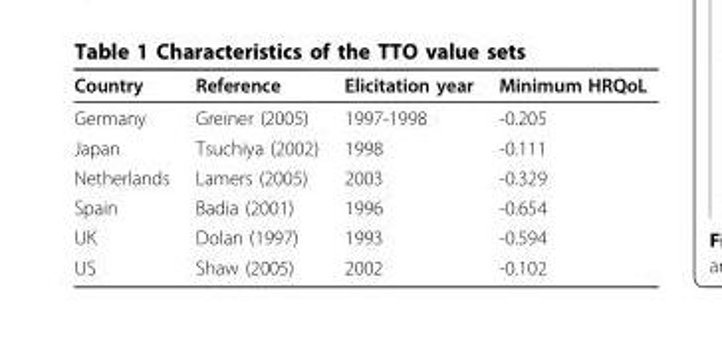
<table><thead><tr><td>Country</td><td>Reference</td><td>Elicitation year</td><td>Minimum HRQoL</td></tr></thead><tbody><tr><td>Germany</td><td>Greiner (2005)</td><td>1997-1998</td><td>-0.205</td></tr><tr><td>Japan</td><td>Tsuchiya (2002)</td><td>1998</td><td>-0.111</td></tr><tr><td>Netherlands</td><td>Lamers (2005)</td><td>2003</td><td>-0.329</td></tr><tr><td>Spain</td><td>Badia (2001)</td><td>1996</td><td>-0.654</td></tr><tr><td>UK</td><td>Dolan (1997)</td><td>1993</td><td>-0.594</td></tr><tr><td>US</td><td>Shaw (2005)</td><td>2002</td><td>-0.102</td></tr></tbody></table>